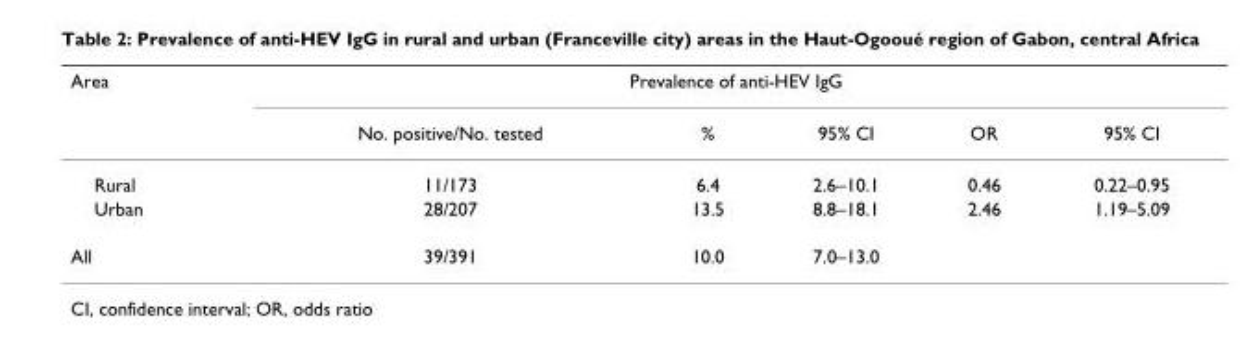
<table><thead><tr><td rowspan="2">Area</td><td colspan="5">Prevalence of anti-HEV IgG</td></tr><tr><td>No. positive/No. tested</td><td>%</td><td>95% CI</td><td>OR</td><td>95% CI</td></tr></thead><tbody><tr><td>Rural</td><td>11/173</td><td>6.4</td><td>2.6–10.1</td><td>0.46</td><td>0.22–0.95</td></tr><tr><td>Urban</td><td>28/207</td><td>13.5</td><td>8.8–18.1</td><td>2.46</td><td>1.19–5.09</td></tr><tr><td>All</td><td>39/391</td><td>10.0</td><td>7.0–13.0</td><td></td><td></td></tr></tbody></table>